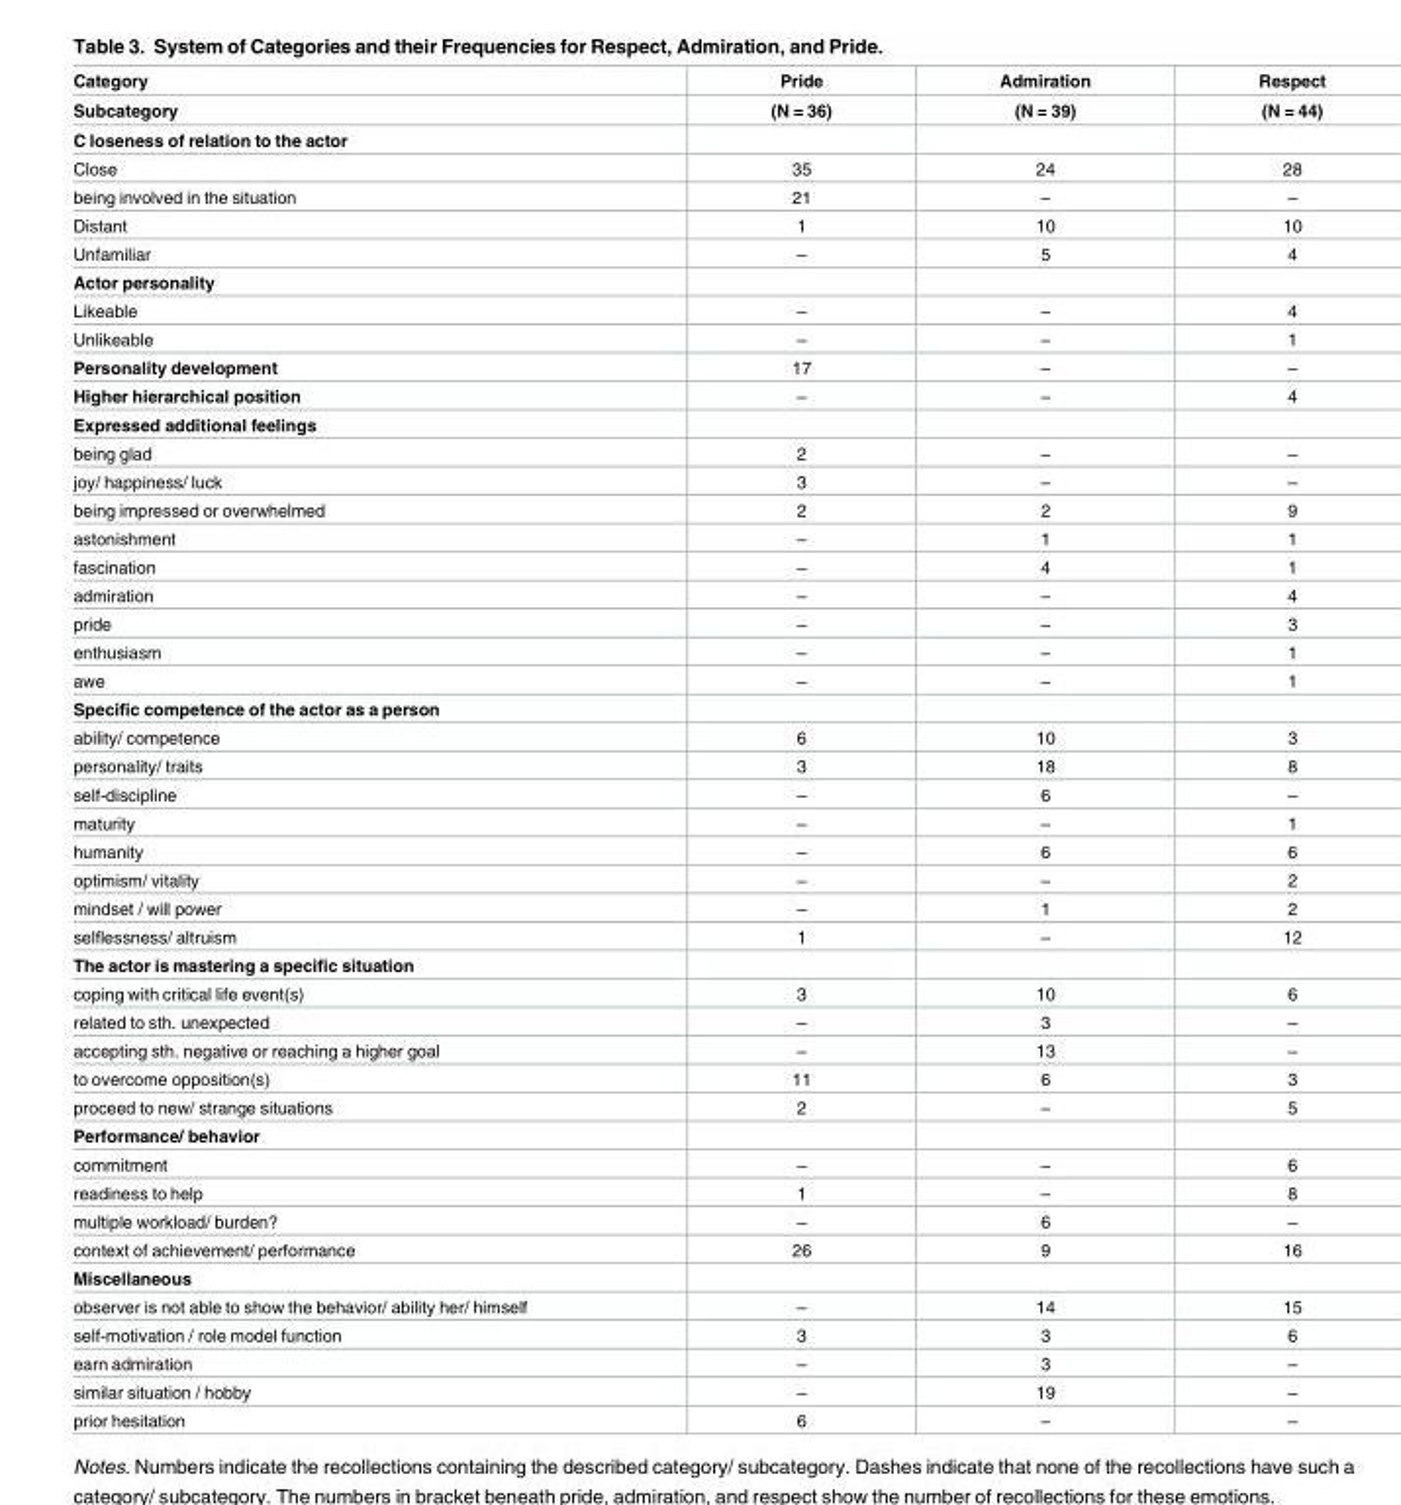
<table><thead><tr><td rowspan="2">Category Subcategory</td><td rowspan="2">Pride (N = 36)</td><td rowspan="2">Admiration (N = 39)</td><td rowspan="2">Respect (N = 44)</td></tr><tr></tr></thead><tbody><tr><td colspan="4">C loseness of relation to the actor</td></tr><tr><td>Close</td><td>35</td><td>24</td><td>28</td></tr><tr><td>being involved in the situation</td><td>21</td><td>–</td><td>–</td></tr><tr><td>Distant</td><td>1</td><td>10</td><td>10</td></tr><tr><td>Unfamiliar</td><td>–</td><td>5</td><td>4</td></tr><tr><td colspan="4">Actor personality</td></tr><tr><td>Likeable</td><td>–</td><td>–</td><td>4</td></tr><tr><td>Unlikeable</td><td>–</td><td>–</td><td>1</td></tr><tr><td>Personality development</td><td>17</td><td>–</td><td>–</td></tr><tr><td>Higher hierarchical position</td><td>–</td><td>–</td><td>4</td></tr><tr><td colspan="4">Expressed additional feelings</td></tr><tr><td>being glad</td><td>2</td><td>–</td><td>–</td></tr><tr><td>joy/ happiness/ luck</td><td>3</td><td>–</td><td>–</td></tr><tr><td>being impressed or overwhelmed</td><td>2</td><td>2</td><td>9</td></tr><tr><td>astonishment</td><td>–</td><td>1</td><td>1</td></tr><tr><td>fascination</td><td>–</td><td>4</td><td>1</td></tr><tr><td>admiration</td><td>–</td><td>–</td><td>4</td></tr><tr><td>pride</td><td>–</td><td>–</td><td>3</td></tr><tr><td>enthusiasm</td><td>–</td><td>–</td><td>1</td></tr><tr><td>awe</td><td>–</td><td>–</td><td>1</td></tr><tr><td colspan="4">Specific competence of the actor as a person</td></tr><tr><td>ability/ competence</td><td>6</td><td>10</td><td>3</td></tr><tr><td>personality/ traits</td><td>3</td><td>18</td><td>8</td></tr><tr><td>self-discipline</td><td>–</td><td>6</td><td>–</td></tr><tr><td>maturity</td><td>–</td><td>–</td><td>1</td></tr><tr><td>humanity</td><td>–</td><td>6</td><td>6</td></tr><tr><td>optimism/ vitality</td><td>–</td><td>–</td><td>2</td></tr><tr><td>mindset / will power</td><td>–</td><td>1</td><td>2</td></tr><tr><td>selflessness/ altruism</td><td>1</td><td>–</td><td>12</td></tr><tr><td colspan="4">The actor is mastering a specific situation</td></tr><tr><td>coping with critical life event(s)</td><td>3</td><td>10</td><td>6</td></tr><tr><td>related to sth. unexpected</td><td>–</td><td>3</td><td>–</td></tr><tr><td>accepting sth. negative or reaching a higher goal</td><td>–</td><td>13</td><td>–</td></tr><tr><td>to overcome opposition(s)</td><td>11</td><td>6</td><td>3</td></tr><tr><td>proceed to new/ strange situations</td><td>2</td><td>–</td><td>5</td></tr><tr><td colspan="4">Performance/ behavior</td></tr><tr><td>commitment</td><td>–</td><td>–</td><td>6</td></tr><tr><td>readiness to help</td><td>1</td><td>–</td><td>8</td></tr><tr><td>multiple workload/ burden?</td><td>–</td><td>6</td><td>–</td></tr><tr><td>context of achievement/ performance</td><td>26</td><td>9</td><td>16</td></tr><tr><td colspan="4">Miscellaneous</td></tr><tr><td>observer is not able to show the behavior/ ability her/ himself</td><td>–</td><td>14</td><td>15</td></tr><tr><td>self-motivation / role model function</td><td>3</td><td>3</td><td>6</td></tr><tr><td>earn admiration</td><td>–</td><td>3</td><td>–</td></tr><tr><td>similar situation / hobby</td><td>–</td><td>19</td><td>–</td></tr><tr><td>prior hesitation</td><td>6</td><td>–</td><td>–</td></tr></tbody></table>